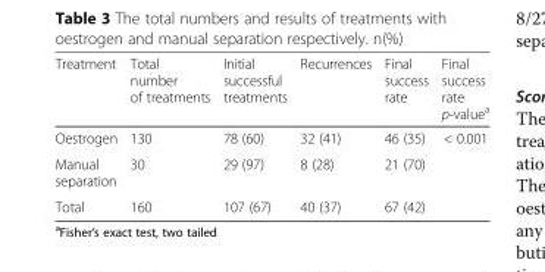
<table><thead><tr><td>Treatment</td><td>Total number of treatments</td><td>Initial successful treatments</td><td>Recurrences</td><td>Final success rate</td><td>Final success rate p-value<sup>a</sup></td></tr></thead><tbody><tr><td>Oestrogen</td><td>130</td><td>78 (60)</td><td>32 (41)</td><td>46 (35)</td><td rowspan="2">&lt; 0.001</td></tr><tr><td>Manual separation</td><td>30</td><td>29 (97)</td><td>8 (28)</td><td>21 (70)</td></tr><tr><td>Total</td><td>160</td><td>107 (67)</td><td>40 (37)</td><td>67 (42)</td><td></td></tr></tbody></table>